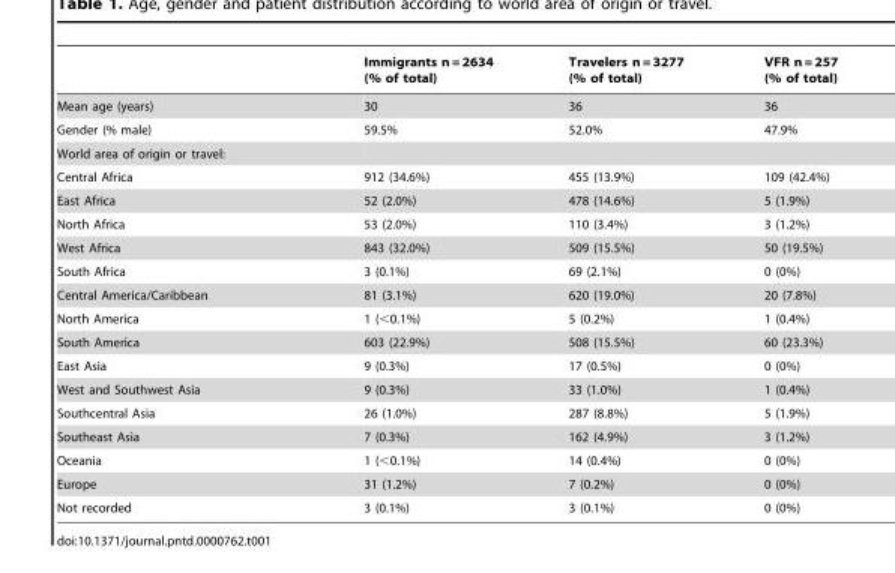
<table><thead><tr><td></td><td>Immigrants n = 2634 (% of total)</td><td>Travelers n = 3277 (% of total)</td><td>VFR n = 257 (% of total)</td></tr></thead><tbody><tr><td>Mean age (years)</td><td>30</td><td>36</td><td>36</td></tr><tr><td>Gender (% male)</td><td>59.5%</td><td>52.0%</td><td>47.9%</td></tr><tr><td colspan="4">World area of origin or travel:</td></tr><tr><td>Central Africa</td><td>912 (34.6%)</td><td>455 (13.9%)</td><td>109 (42.4%)</td></tr><tr><td>East Africa</td><td>52 (2.0%)</td><td>478 (14.6%)</td><td>5 (1.9%)</td></tr><tr><td>North Africa</td><td>53 (2.0%)</td><td>110 (3.4%)</td><td>3 (1.2%)</td></tr><tr><td>West Africa</td><td>843 (32.0%)</td><td>509 (15.5%)</td><td>50 (19.5%)</td></tr><tr><td>South Africa</td><td>3 (0.1%)</td><td>69 (2.1%)</td><td>0 (0%)</td></tr><tr><td>Central America/Caribbean</td><td>81 (3.1%)</td><td>620 (19.0%)</td><td>20 (7.8%)</td></tr><tr><td>North America</td><td>1 (&lt;0.1%)</td><td>5 (0.2%)</td><td>1 (0.4%)</td></tr><tr><td>South America</td><td>603 (22.9%)</td><td>508 (15.5%)</td><td>60 (23.3%)</td></tr><tr><td>East Asia</td><td>9 (0.3%)</td><td>17 (0.5%)</td><td>0 (0%)</td></tr><tr><td>West and Southwest Asia</td><td>9 (0.3%)</td><td>33 (1.0%)</td><td>1 (0.4%)</td></tr><tr><td>Southcentral Asia</td><td>26 (1.0%)</td><td>287 (8.8%)</td><td>5 (1.9%)</td></tr><tr><td>Southeast Asia</td><td>7 (0.3%)</td><td>162 (4.9%)</td><td>3 (1.2%)</td></tr><tr><td>Oceania</td><td>1 (&lt;0.1%)</td><td>14 (0.4%)</td><td>0 (0%)</td></tr><tr><td>Europe</td><td>31 (1.2%)</td><td>7 (0.2%)</td><td>0 (0%)</td></tr><tr><td>Not recorded</td><td>3 (0.1%)</td><td>3 (0.1%)</td><td>0 (0%)</td></tr></tbody></table>